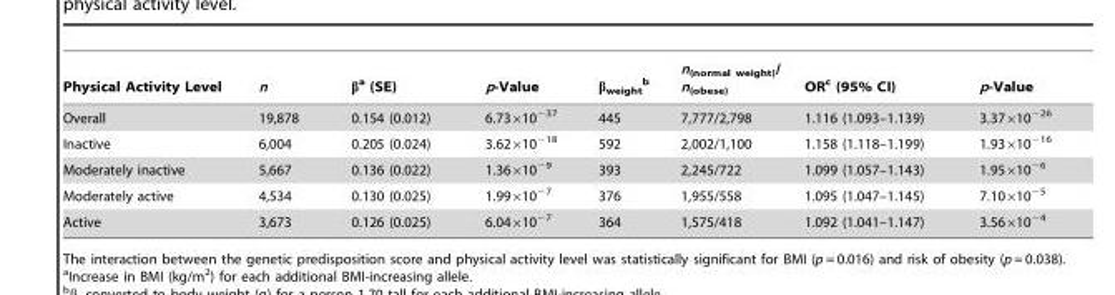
<table><thead><tr><td>Physical Activity Level</td><td>n</td><td>β<sup>a</sup> (SE)</td><td>p-Value</td><td>β<sub>weight</sub> b</td><td>n<sub>(normal weight)</sub>/ n<sub>(obese)</sub></td><td>OR<sup>c</sup> (95% CI)</td><td>p-Value</td></tr></thead><tbody><tr><td>Overall</td><td>19,878</td><td>0.154 (0.012)</td><td>6.73×10<sup>−37</sup></td><td>445</td><td>7,777/2,798</td><td>1.116 (1.093–1.139)</td><td>3.37×10<sup>−26</sup></td></tr><tr><td>Inactive</td><td>6,004</td><td>0.205 (0.024)</td><td>3.62×10<sup>−18</sup></td><td>592</td><td>2,002/1,100</td><td>1.158 (1.118–1.199)</td><td>1.93×10<sup>−16</sup></td></tr><tr><td>Moderately inactive</td><td>5,667</td><td>0.136 (0.022)</td><td>1.36×10<sup>−9</sup></td><td>393</td><td>2,245/722</td><td>1.099 (1.057–1.143)</td><td>1.95×10<sup>−6</sup></td></tr><tr><td>Moderately active</td><td>4,534</td><td>0.130 (0.025)</td><td>1.99×10<sup>−7</sup></td><td>376</td><td>1,955/558</td><td>1.095 (1.047–1.145)</td><td>7.10×10<sup>−5</sup></td></tr><tr><td>Active</td><td>3,673</td><td>0.126 (0.025)</td><td>6.04×10<sup>−7</sup></td><td>364</td><td>1,575/418</td><td>1.092 (1.041–1.147)</td><td>3.56×10<sup>−4</sup></td></tr></tbody></table>